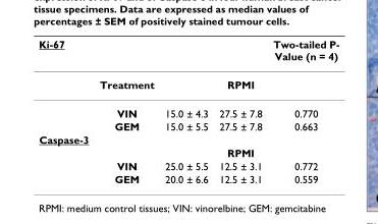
<table><thead><tr><td>Ki-67</td><td></td><td></td><td></td><td>Two-tailed P- Value (n = 4)</td></tr></thead><tbody><tr><td></td><td>Treatment</td><td></td><td>RPMI</td><td></td></tr><tr><td></td><td>VIN</td><td>15.0 ± 4.3</td><td>27.5 ± 7.8</td><td>0.770</td></tr><tr><td></td><td>GEM</td><td>15.0 ± 5.5</td><td>27.5 ± 7.8</td><td>0.663</td></tr><tr><td colspan="5">Caspase-3</td></tr><tr><td></td><td></td><td></td><td>RPMI</td><td></td></tr><tr><td></td><td>VIN</td><td>25.0 ± 5.5</td><td>12.5 ± 3.1</td><td>0.772</td></tr><tr><td></td><td>GEM</td><td>20.0 ± 6.6</td><td>12.5 ± 3.1</td><td>0.559</td></tr></tbody></table>